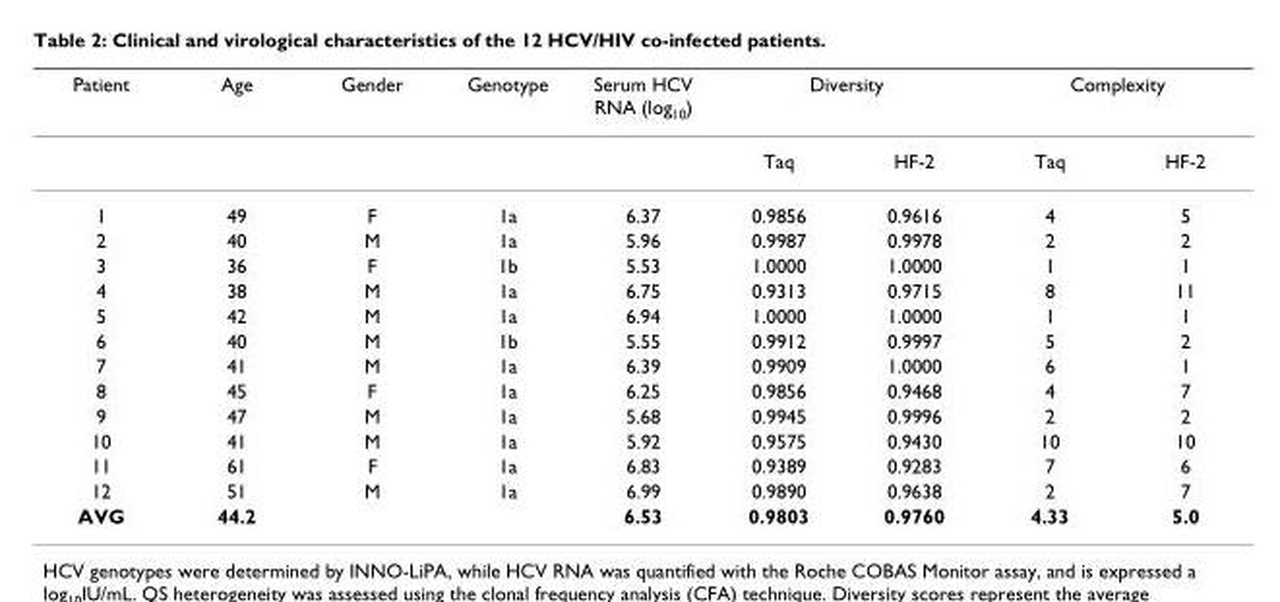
<table><thead><tr><td rowspan="2">Patient</td><td rowspan="2">Age</td><td rowspan="2">Gender</td><td rowspan="2">Genotype</td><td rowspan="2">Serum HCV RNA (log<sub>10</sub>)</td><td colspan="2">Diversity</td><td colspan="2">Complexity</td></tr><tr><td>Taq</td><td>HF-2</td><td>Taq</td><td>HF-2</td></tr></thead><tbody><tr><td>1</td><td>49</td><td>F</td><td>1a</td><td>6.37</td><td>0.9856</td><td>0.9616</td><td>4</td><td>5</td></tr><tr><td>2</td><td>40</td><td>M</td><td>1a</td><td>5.96</td><td>0.9987</td><td>0.9978</td><td>2</td><td>2</td></tr><tr><td>3</td><td>36</td><td>F</td><td>1b</td><td>5.53</td><td>1.0000</td><td>1.0000</td><td>1</td><td>1</td></tr><tr><td>4</td><td>38</td><td>M</td><td>1a</td><td>6.75</td><td>0.9313</td><td>0.9715</td><td>8</td><td>11</td></tr><tr><td>5</td><td>42</td><td>M</td><td>1a</td><td>6.94</td><td>1.0000</td><td>1.0000</td><td>1</td><td>1</td></tr><tr><td>6</td><td>40</td><td>M</td><td>1b</td><td>5.55</td><td>0.9912</td><td>0.9997</td><td>5</td><td>2</td></tr><tr><td>7</td><td>41</td><td>M</td><td>1a</td><td>6.39</td><td>0.9909</td><td>1.0000</td><td>6</td><td>1</td></tr><tr><td>8</td><td>45</td><td>F</td><td>1a</td><td>6.25</td><td>0.9856</td><td>0.9468</td><td>4</td><td>7</td></tr><tr><td>9</td><td>47</td><td>M</td><td>1a</td><td>5.68</td><td>0.9945</td><td>0.9996</td><td>2</td><td>2</td></tr><tr><td>10</td><td>41</td><td>M</td><td>1a</td><td>5.92</td><td>0.9575</td><td>0.9430</td><td>10</td><td>10</td></tr><tr><td>11</td><td>61</td><td>F</td><td>1a</td><td>6.83</td><td>0.9389</td><td>0.9283</td><td>7</td><td>6</td></tr><tr><td>12</td><td>51</td><td>M</td><td>1a</td><td>6.99</td><td>0.9890</td><td>0.9638</td><td>2</td><td>7</td></tr><tr><td>AVG</td><td>44.2</td><td></td><td></td><td>6.53</td><td>0.9803</td><td>0.9760</td><td>4.33</td><td>5.0</td></tr></tbody></table>